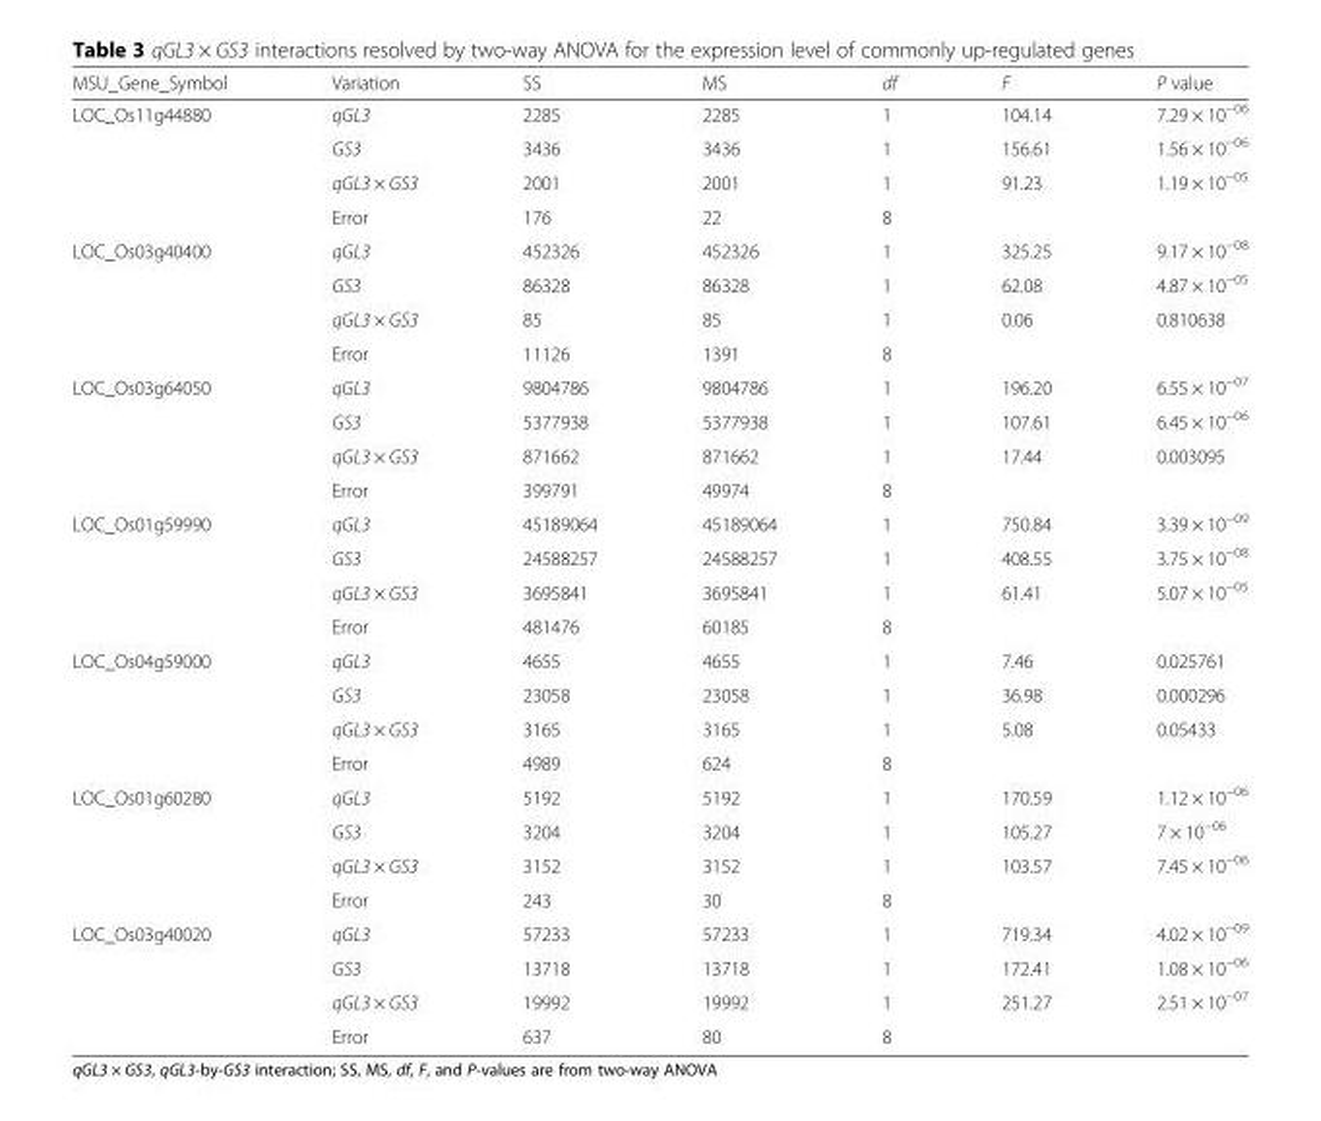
<table><thead><tr><td>MSU_Gene_Symbol</td><td>Variation</td><td>SS</td><td>MS</td><td>df</td><td>F</td><td>P value</td></tr></thead><tbody><tr><td rowspan="4">LOC_Os11g44880</td><td>qGL3</td><td>2285</td><td>2285</td><td>1</td><td>104.14</td><td>7.29 × 10<sup>−06</sup></td></tr><tr><td>GS3</td><td>3436</td><td>3436</td><td>1</td><td>156.61</td><td>1.56 × 10<sup>−06</sup></td></tr><tr><td>qGL3 × GS3</td><td>2001</td><td>2001</td><td>1</td><td>91.23</td><td>1.19 × 10<sup>−05</sup></td></tr><tr><td>Error</td><td>176</td><td>22</td><td>8</td><td></td><td></td></tr><tr><td rowspan="4">LOC_Os03g40400</td><td>qGL3</td><td>452326</td><td>452326</td><td>1</td><td>325.25</td><td>9.17 × 10<sup>−08</sup></td></tr><tr><td>GS3</td><td>86328</td><td>86328</td><td>1</td><td>62.08</td><td>4.87 × 10<sup>−05</sup></td></tr><tr><td>qGL3 × GS3</td><td>85</td><td>85</td><td>1</td><td>0.06</td><td>0.810638</td></tr><tr><td>Error</td><td>11126</td><td>1391</td><td>8</td><td></td><td></td></tr><tr><td rowspan="4">LOC_Os03g64050</td><td>qGL3</td><td>9804786</td><td>9804786</td><td>1</td><td>196.20</td><td>6.55 × 10<sup>−07</sup></td></tr><tr><td>GS3</td><td>5377938</td><td>5377938</td><td>1</td><td>107.61</td><td>6.45 × 10<sup>−06</sup></td></tr><tr><td>qGL3 × GS3</td><td>871662</td><td>871662</td><td>1</td><td>17.44</td><td>0.003095</td></tr><tr><td>Error</td><td>399791</td><td>49974</td><td>8</td><td></td><td></td></tr><tr><td rowspan="4">LOC_Os01g59990</td><td>qGL3</td><td>45189064</td><td>45189064</td><td>1</td><td>750.84</td><td>3.39 × 10<sup>−09</sup></td></tr><tr><td>GS3</td><td>24588257</td><td>24588257</td><td>1</td><td>408.55</td><td>3.75 × 10<sup>−08</sup></td></tr><tr><td>qGL3 × GS3</td><td>3695841</td><td>3695841</td><td>1</td><td>61.41</td><td>5.07 × 10<sup>−05</sup></td></tr><tr><td>Error</td><td>481476</td><td>60185</td><td>8</td><td></td><td></td></tr><tr><td rowspan="4">LOC_Os04g59000</td><td>qGL3</td><td>4655</td><td>4655</td><td>1</td><td>7.46</td><td>0.025761</td></tr><tr><td>GS3</td><td>23058</td><td>23058</td><td>1</td><td>36.98</td><td>0.000296</td></tr><tr><td>qGL3 × GS3</td><td>3165</td><td>3165</td><td>1</td><td>5.08</td><td>0.05433</td></tr><tr><td>Error</td><td>4989</td><td>624</td><td>8</td><td></td><td></td></tr><tr><td rowspan="4">LOC_Os01g60280</td><td>qGL3</td><td>5192</td><td>5192</td><td>1</td><td>170.59</td><td>1.12 × 10<sup>−06</sup></td></tr><tr><td>GS3</td><td>3204</td><td>3204</td><td>1</td><td>105.27</td><td>7 × 10<sup>−06</sup></td></tr><tr><td>qGL3 × GS3</td><td>3152</td><td>3152</td><td>1</td><td>103.57</td><td>7.45 × 10<sup>−06</sup></td></tr><tr><td>Error</td><td>243</td><td>30</td><td>8</td><td></td><td></td></tr><tr><td rowspan="4">LOC_Os03g40020</td><td>qGL3</td><td>57233</td><td>57233</td><td>1</td><td>719.34</td><td>4.02 × 10<sup>−09</sup></td></tr><tr><td>GS3</td><td>13718</td><td>13718</td><td>1</td><td>172.41</td><td>1.08 × 10<sup>−06</sup></td></tr><tr><td>qGL3 × GS3</td><td>19992</td><td>19992</td><td>1</td><td>251.27</td><td>2.51 × 10<sup>−07</sup></td></tr><tr><td>Error</td><td>637</td><td>80</td><td>8</td><td></td><td></td></tr></tbody></table>